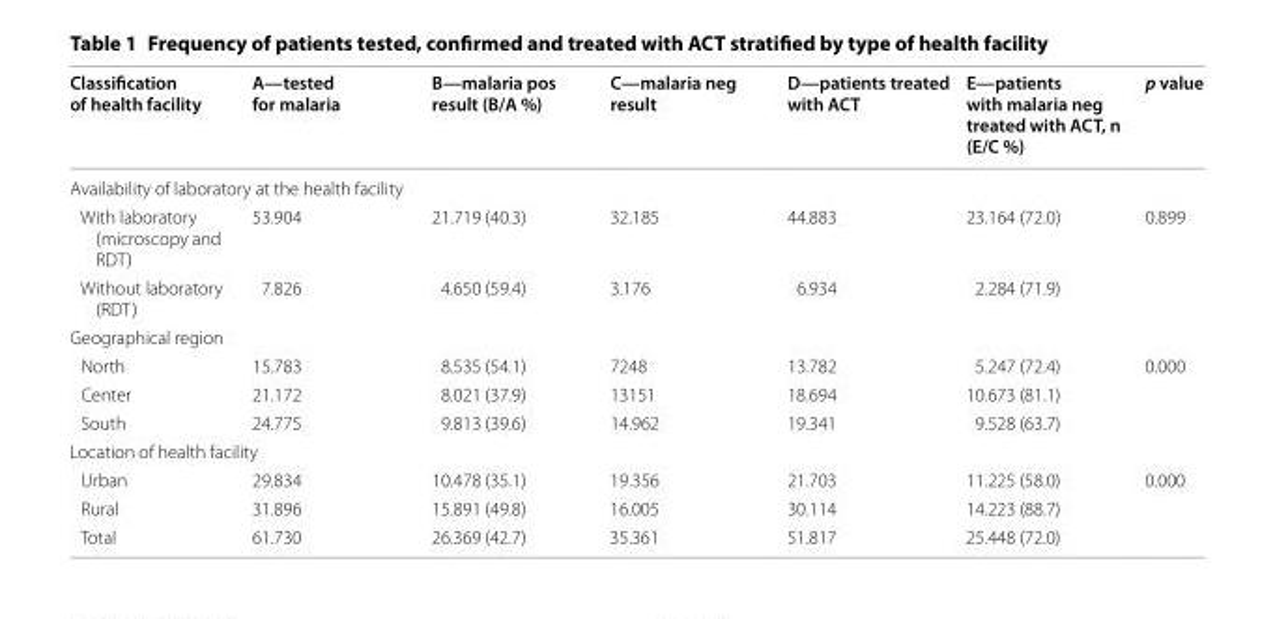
<table><thead><tr><td>Classification of health facility</td><td>A—tested for malaria</td><td>B—malaria pos result (B/A %)</td><td>C—malaria neg result</td><td>D—patients treated with ACT</td><td>E—patients with malaria neg treated with ACT, n (E/C %)</td><td>p value</td></tr></thead><tbody><tr><td colspan="7">Availability of laboratory at the health facility</td></tr><tr><td>With laboratory (microscopy and RDT)</td><td>53.904</td><td>21.719 (40.3)</td><td>32.185</td><td>44.883</td><td>23.164 (72.0)</td><td rowspan="2">0.899</td></tr><tr><td>Without laboratory (RDT)</td><td>7.826</td><td>4.650 (59.4)</td><td>3.176</td><td>6.934</td><td>2.284 (71.9)</td></tr><tr><td colspan="7">Geographical region</td></tr><tr><td>North</td><td>15.783</td><td>8.535 (54.1)</td><td>7248</td><td>13.782</td><td>5.247 (72.4)</td><td rowspan="3">0.000</td></tr><tr><td>Center</td><td>21.172</td><td>8.021 (37.9)</td><td>13151</td><td>18.694</td><td>10.673 (81.1)</td></tr><tr><td>South</td><td>24.775</td><td>9.813 (39.6)</td><td>14.962</td><td>19.341</td><td>9.528 (63.7)</td></tr><tr><td colspan="7">Location of health facility</td></tr><tr><td>Urban</td><td>29.834</td><td>10.478 (35.1)</td><td>19.356</td><td>21.703</td><td>11.225 (58.0)</td><td rowspan="2">0.000</td></tr><tr><td>Rural</td><td>31.896</td><td>15.891 (49.8)</td><td>16.005</td><td>30.114</td><td>14.223 (88.7)</td></tr><tr><td>Total</td><td>61.730</td><td>26.369 (42.7)</td><td>35.361</td><td>51.817</td><td>25.448 (72.0)</td><td></td></tr></tbody></table>